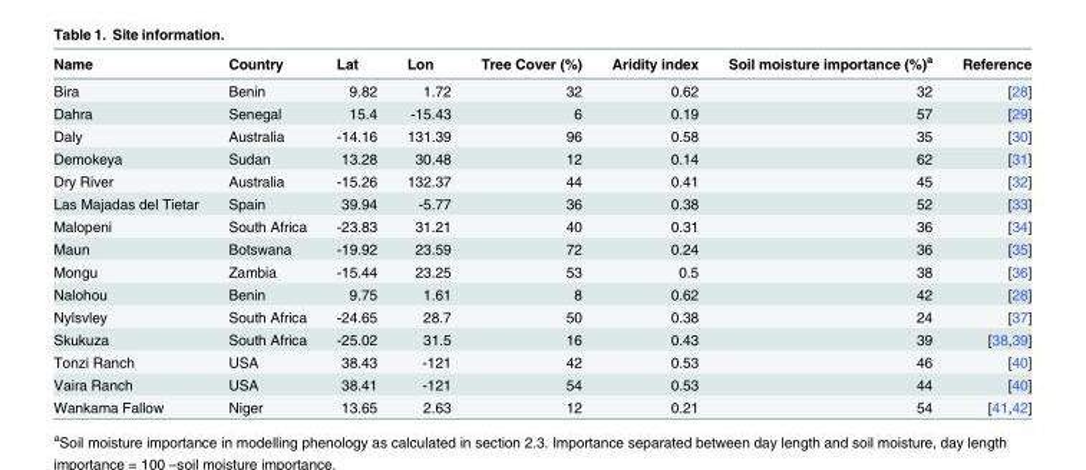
<table><thead><tr><td>Name</td><td>Country</td><td>Lat</td><td>Lon</td><td>Tree Cover (%)</td><td>Aridity index</td><td>Soil moisture importance (%)<sup>a</sup></td><td>Reference</td></tr></thead><tbody><tr><td>Bira</td><td>Benin</td><td>9.82</td><td>1.72</td><td>32</td><td>0.62</td><td>32</td><td>[28]</td></tr><tr><td>Dahra</td><td>Senegal</td><td>15.4</td><td>-15.43</td><td>6</td><td>0.19</td><td>57</td><td>[29]</td></tr><tr><td>Daly</td><td>Australia</td><td>-14.16</td><td>131.39</td><td>96</td><td>0.58</td><td>35</td><td>[30]</td></tr><tr><td>Demokeya</td><td>Sudan</td><td>13.28</td><td>30.48</td><td>12</td><td>0.14</td><td>62</td><td>[31]</td></tr><tr><td>Dry River</td><td>Australia</td><td>-15.26</td><td>132.37</td><td>44</td><td>0.41</td><td>45</td><td>[32]</td></tr><tr><td>Las Majadas del Tietar</td><td>Spain</td><td>39.94</td><td>-5.77</td><td>36</td><td>0.38</td><td>52</td><td>[33]</td></tr><tr><td>Malopeni</td><td>South Africa</td><td>-23.83</td><td>31.21</td><td>40</td><td>0.31</td><td>36</td><td>[34]</td></tr><tr><td>Maun</td><td>Botswana</td><td>-19.92</td><td>23.59</td><td>72</td><td>0.24</td><td>36</td><td>[35]</td></tr><tr><td>Mongu</td><td>Zambia</td><td>-15.44</td><td>23.25</td><td>53</td><td>0.5</td><td>38</td><td>[36]</td></tr><tr><td>Nalohou</td><td>Benin</td><td>9.75</td><td>1.61</td><td>8</td><td>0.62</td><td>42</td><td>[28]</td></tr><tr><td>Nylsvley</td><td>South Africa</td><td>-24.65</td><td>28.7</td><td>50</td><td>0.38</td><td>24</td><td>[37]</td></tr><tr><td>Skukuza</td><td>South Africa</td><td>-25.02</td><td>31.5</td><td>16</td><td>0.43</td><td>39</td><td>[38,39]</td></tr><tr><td>Tonzi Ranch</td><td>USA</td><td>38.43</td><td>-121</td><td>42</td><td>0.53</td><td>46</td><td>[40]</td></tr><tr><td>Vaira Ranch</td><td>USA</td><td>38.41</td><td>-121</td><td>54</td><td>0.53</td><td>44</td><td>[40]</td></tr><tr><td>Wankama Fallow</td><td>Niger</td><td>13.65</td><td>2.63</td><td>12</td><td>0.21</td><td>54</td><td>[41,42]</td></tr></tbody></table>